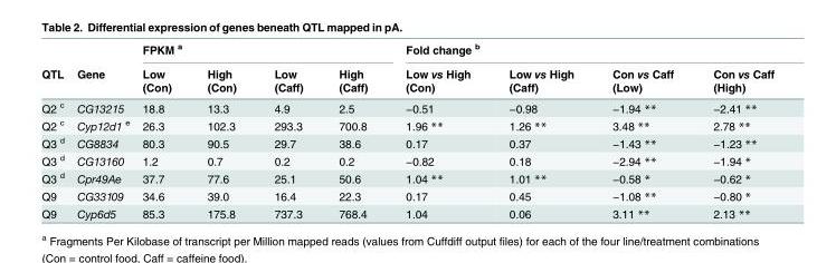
<table><thead><tr><td rowspan="2">QTL</td><td rowspan="2">Gene</td><td colspan="4">FPKM <sup>a</sup></td><td colspan="4">Fold change <sup>b</sup></td></tr><tr><td>Low (Con)</td><td>High (Con)</td><td>Low (Caff)</td><td>High (Caff)</td><td>Low vs High (Con)</td><td>Low vs High (Caff)</td><td>Con vs Caff (Low)</td><td>Con vs Caff (High)</td></tr></thead><tbody><tr><td>Q2 <sup>c</sup></td><td>CG13215</td><td>18.8</td><td>13.3</td><td>4.9</td><td>2.5</td><td>−0.51</td><td>−0.98</td><td>−1.94 **</td><td>−2.41 **</td></tr><tr><td>Q2 <sup>c</sup></td><td>Cyp12d1 <sup>e</sup></td><td>26.3</td><td>102.3</td><td>293.3</td><td>700.8</td><td>1.96 **</td><td>1.26 **</td><td>3.48 **</td><td>2.78 **</td></tr><tr><td>Q3 <sup>d</sup></td><td>CG8834</td><td>80.3</td><td>90.5</td><td>29.7</td><td>38.6</td><td>0.17</td><td>0.37</td><td>−1.43 **</td><td>−1.23 **</td></tr><tr><td>Q3 <sup>d</sup></td><td>CG13160</td><td>1.2</td><td>0.7</td><td>0.2</td><td>0.2</td><td>−0.82</td><td>0.18</td><td>−2.94 **</td><td>−1.94 *</td></tr><tr><td>Q3 <sup>d</sup></td><td>Cpr49Ae</td><td>37.7</td><td>77.6</td><td>25.1</td><td>50.6</td><td>1.04 **</td><td>1.01 **</td><td>−0.58 *</td><td>−0.62 *</td></tr><tr><td>Q9</td><td>CG33109</td><td>34.6</td><td>39.0</td><td>16.4</td><td>22.3</td><td>0.17</td><td>0.45</td><td>−1.08 **</td><td>−0.80 *</td></tr><tr><td>Q9</td><td>Cyp6d5</td><td>85.3</td><td>175.8</td><td>737.3</td><td>768.4</td><td>1.04</td><td>0.06</td><td>3.11 **</td><td>2.13 **</td></tr></tbody></table>